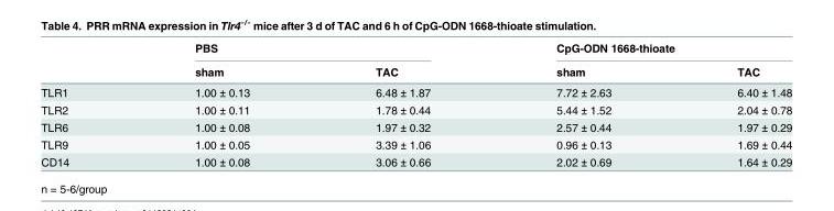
<table><thead><tr><td rowspan="2"></td><td colspan="2">PBS</td><td colspan="2">CpG-ODN 1668-thioate</td></tr><tr><td>sham</td><td>TAC</td><td>sham</td><td>TAC</td></tr></thead><tbody><tr><td>TLR1</td><td>1.00 ± 0.13</td><td>6.48 ± 1.87</td><td>7.72 ± 2.63</td><td>6.40 ± 1.48</td></tr><tr><td>TLR2</td><td>1.00 ± 0.11</td><td>1.78 ± 0.44</td><td>5.44 ± 1.52</td><td>2.04 ± 0.78</td></tr><tr><td>TLR6</td><td>1.00 ± 0.08</td><td>1.97 ± 0.32</td><td>2.57 ± 0.44</td><td>1.97 ± 0.29</td></tr><tr><td>TLR9</td><td>1.00 ± 0.05</td><td>3.39 ± 1.06</td><td>0.96 ± 0.13</td><td>1.69 ± 0.44</td></tr><tr><td>CD14</td><td>1.00 ± 0.08</td><td>3.06 ± 0.66</td><td>2.02 ± 0.69</td><td>1.64 ± 0.29</td></tr></tbody></table>